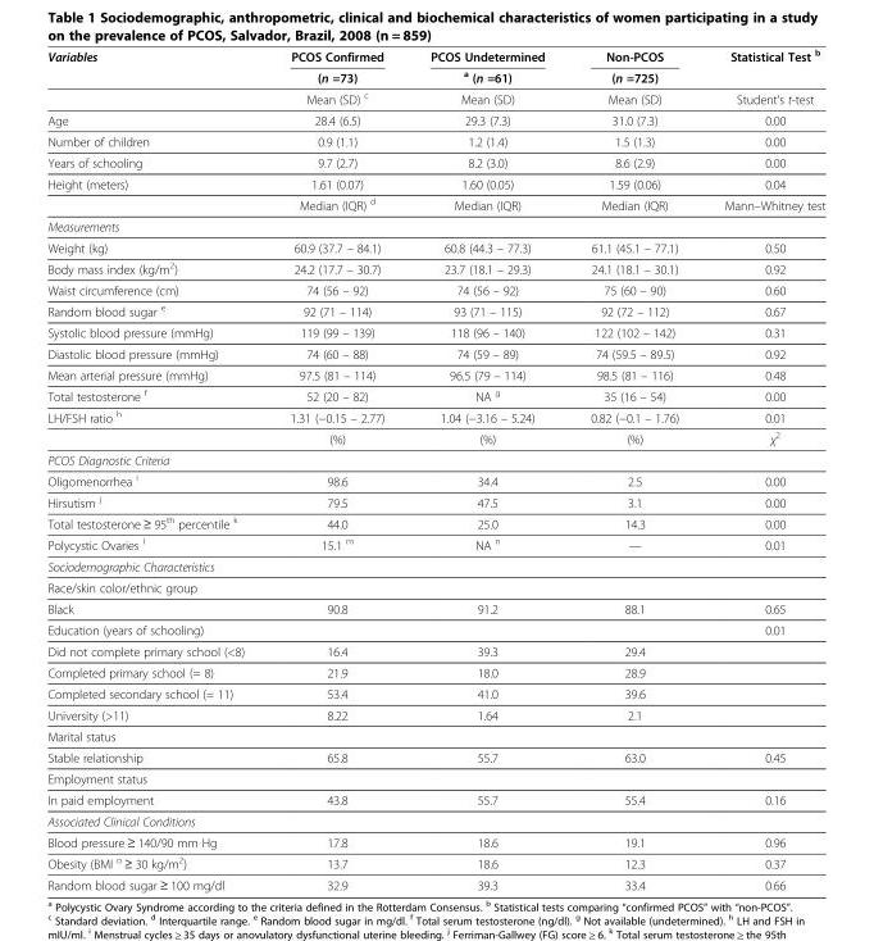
<table><thead><tr><td rowspan="2">Variables</td><td rowspan="2">PCOS Confirmed (n =73)</td><td rowspan="2">PCOS Undetermined <sup>a</sup> (n =61)</td><td rowspan="2">Non-PCOS (n =725)</td><td rowspan="2">Statistical Test <sup>b</sup></td></tr><tr></tr></thead><tbody><tr><td></td><td>Mean (SD) <sup>c</sup></td><td>Mean (SD)</td><td>Mean (SD)</td><td>Student’s t-test</td></tr><tr><td>Age</td><td>28.4 (6.5)</td><td>29.3 (7.3)</td><td>31.0 (7.3)</td><td>0.00</td></tr><tr><td>Number of children</td><td>0.9 (1.1)</td><td>1.2 (1.4)</td><td>1.5 (1.3)</td><td>0.00</td></tr><tr><td>Years of schooling</td><td>9.7 (2.7)</td><td>8.2 (3.0)</td><td>8.6 (2.9)</td><td>0.00</td></tr><tr><td rowspan="2">Height (meters)</td><td>1.61 (0.07)</td><td>1.60 (0.05)</td><td>1.59 (0.06)</td><td>0.04</td></tr><tr><td>Median (IQR) <sup>d</sup></td><td>Median (IQR)</td><td>Median (IQR)</td><td>Mann–Whitney test</td></tr><tr><td colspan="5">Measurements</td></tr><tr><td>Weight (kg)</td><td>60.9 (37.7 – 84.1)</td><td>60.8 (44.3 – 77.3)</td><td>61.1 (45.1 – 77.1)</td><td>0.50</td></tr><tr><td>Body mass index (kg/m<sup>2</sup>)</td><td>24.2 (17.7 – 30.7)</td><td>23.7 (18.1 – 29.3)</td><td>24.1 (18.1 – 30.1)</td><td>0.92</td></tr><tr><td>Waist circumference (cm)</td><td>74 (56 – 92)</td><td>74 (56 – 92)</td><td>75 (60 – 90)</td><td>0.60</td></tr><tr><td>Random blood sugar <sup>e</sup></td><td>92 (71 – 114)</td><td>93 (71 – 115)</td><td>92 (72 – 112)</td><td>0.67</td></tr><tr><td>Systolic blood pressure (mmHg)</td><td>119 (99 – 139)</td><td>118 (96 – 140)</td><td>122 (102 – 142)</td><td>0.31</td></tr><tr><td>Diastolic blood pressure (mmHg)</td><td>74 (60 – 88)</td><td>74 (59 – 89)</td><td>74 (59.5 – 89.5)</td><td>0.92</td></tr><tr><td>Mean arterial pressure (mmHg)</td><td>97.5 (81 – 114)</td><td>96.5 (79 – 114)</td><td>98.5 (81 – 116)</td><td>0.48</td></tr><tr><td>Total testosterone <sup>f</sup></td><td>52 (20 – 82)</td><td>NA <sup>g</sup></td><td>35 (16 – 54)</td><td>0.00</td></tr><tr><td rowspan="2">LH/FSH ratio <sup>h</sup></td><td>1.31 (−0.15 – 2.77)</td><td>1.04 (−3.16 – 5.24)</td><td>0.82 (−0.1 – 1.76)</td><td>0.01</td></tr><tr><td>(%)</td><td>(%)</td><td>(%)</td><td>χ<sup>2</sup></td></tr><tr><td colspan="5">PCOS Diagnostic Criteria</td></tr><tr><td>Oligomenorrhea <sup>i</sup></td><td>98.6</td><td>34.4</td><td>2.5</td><td>0.00</td></tr><tr><td>Hirsutism <sup>j</sup></td><td>79.5</td><td>47.5</td><td>3.1</td><td>0.00</td></tr><tr><td>Total testosterone ≥ 95<sup>th</sup> percentile <sup>k</sup></td><td>44.0</td><td>25.0</td><td>14.3</td><td>0.00</td></tr><tr><td>Polycystic Ovaries <sup>l</sup></td><td>15.1 <sup>m</sup></td><td>NA <sup>n</sup></td><td>—</td><td>0.01</td></tr><tr><td colspan="5">Sociodemographic Characteristics</td></tr><tr><td colspan="5">Race/skin color/ethnic group</td></tr><tr><td>Black</td><td>90.8</td><td>91.2</td><td>88.1</td><td>0.65</td></tr><tr><td>Education (years of schooling)</td><td></td><td></td><td></td><td>0.01</td></tr><tr><td>Did not complete primary school (&lt;8)</td><td>16.4</td><td>39.3</td><td>29.4</td><td></td></tr><tr><td>Completed primary school (= 8)</td><td>21.9</td><td>18.0</td><td>28.9</td><td></td></tr><tr><td>Completed secondary school (= 11)</td><td>53.4</td><td>41.0</td><td>39.6</td><td></td></tr><tr><td>University (&gt;11)</td><td>8.22</td><td>1.64</td><td>2.1</td><td></td></tr><tr><td colspan="5">Marital status</td></tr><tr><td>Stable relationship</td><td>65.8</td><td>55.7</td><td>63.0</td><td>0.45</td></tr><tr><td colspan="5">Employment status</td></tr><tr><td>In paid employment</td><td>43.8</td><td>55.7</td><td>55.4</td><td>0.16</td></tr><tr><td colspan="5">Associated Clinical Conditions</td></tr><tr><td>Blood pressure ≥ 140/90 mm Hg</td><td>17.8</td><td>18.6</td><td>19.1</td><td>0.96</td></tr><tr><td>Obesity (BMI <sup>o</sup> ≥ 30 kg/m<sup>2</sup>)</td><td>13.7</td><td>18.6</td><td>12.3</td><td>0.37</td></tr><tr><td>Random blood sugar ≥ 100 mg/dl</td><td>32.9</td><td>39.3</td><td>33.4</td><td>0.66</td></tr></tbody></table>